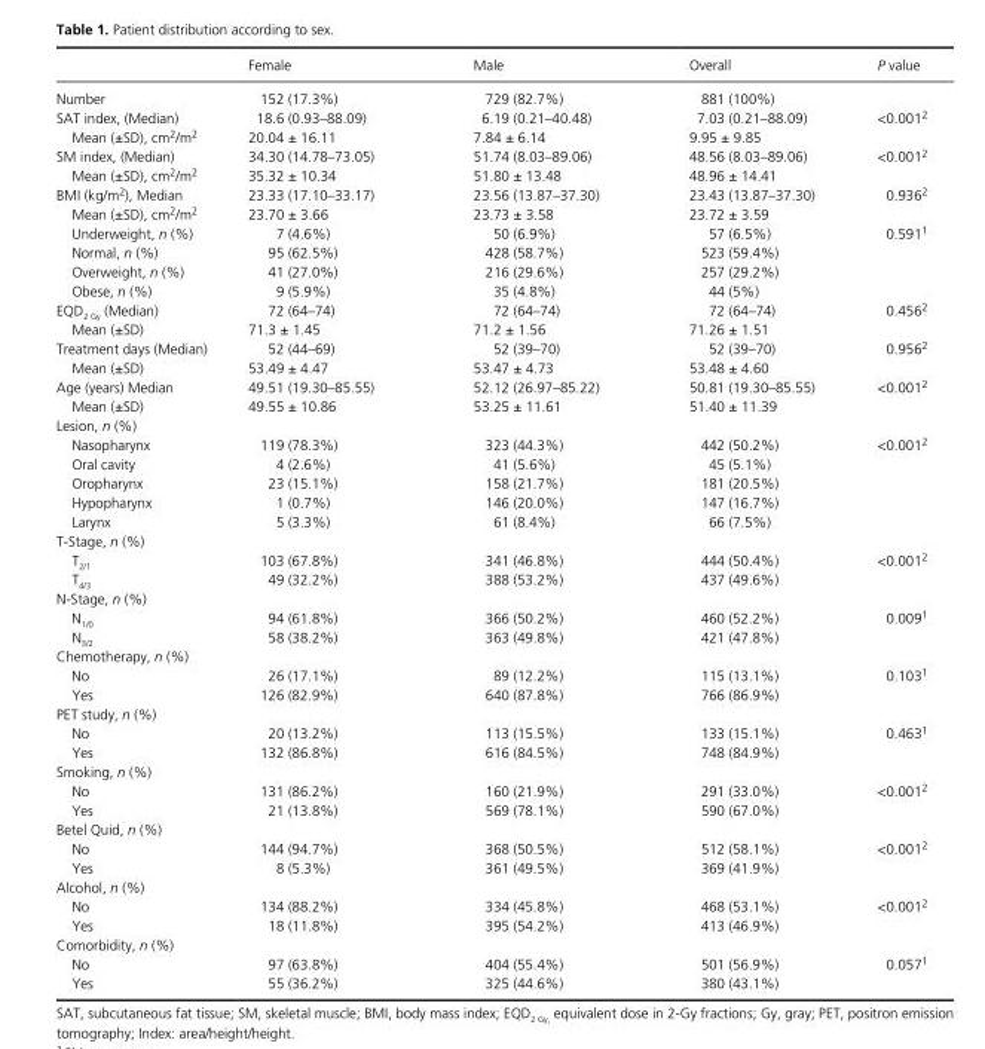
<table><thead><tr><td></td><td>Female</td><td>Male</td><td>Overall</td><td>P value</td></tr></thead><tbody><tr><td>Number</td><td>152 (17.3%)</td><td>729 (82.7%)</td><td>881 (100%)</td><td></td></tr><tr><td>SAT index, (Median)</td><td>18.6 (0.93–88.09)</td><td>6.19 (0.21–40.48)</td><td>7.03 (0.21–88.09)</td><td>&lt;0.0012</td></tr><tr><td>Mean (±SD), cm<sup>2</sup>/m<sup>2</sup></td><td>20.04 ± 16.11</td><td>7.84 ± 6.14</td><td>9.95 ± 9.85</td><td></td></tr><tr><td>SM index, (Median)</td><td>34.30 (14.78–73.05)</td><td>51.74 (8.03–89.06)</td><td>48.56 (8.03–89.06)</td><td>&lt;0.0012</td></tr><tr><td>Mean (±SD), cm<sup>2</sup>/m<sup>2</sup></td><td>35.32 ± 10.34</td><td>51.80 ± 13.48</td><td>48.96 ± 14.41</td><td></td></tr><tr><td>BMI (kg/m<sup>2</sup>), Median</td><td>23.33 (17.10–33.17)</td><td>23.56 (13.87–37.30)</td><td>23.43 (13.87–37.30)</td><td>0.9362</td></tr><tr><td>Mean (±SD), cm<sup>2</sup>/m<sup>2</sup></td><td>23.70 ± 3.66</td><td>23.73 ± 3.58</td><td>23.72 ± 3.59</td><td></td></tr><tr><td>Underweight, n (%)</td><td>7 (4.6%)</td><td>50 (6.9%)</td><td>57 (6.5%)</td><td>0.591<sup>1</sup></td></tr><tr><td>Normal, n (%)</td><td>95 (62.5%)</td><td>428 (58.7%)</td><td>523 (59.4%)</td><td></td></tr><tr><td>Overweight, n (%)</td><td>41 (27.0%)</td><td>216 (29.6%)</td><td>257 (29.2%)</td><td></td></tr><tr><td>Obese, n (%)</td><td>9 (5.9%)</td><td>35 (4.8%)</td><td>44 (5%)</td><td></td></tr><tr><td>EQD<sub>2 Gy</sub> (Median)</td><td>72 (64–74)</td><td>72 (64–74)</td><td>72 (64–74)</td><td>0.4562</td></tr><tr><td>Mean (±SD)</td><td>71.3 ± 1.45</td><td>71.2 ± 1.56</td><td>71.26 ± 1.51</td><td></td></tr><tr><td>Treatment days (Median)</td><td>52 (44–69)</td><td>52 (39–70)</td><td>52 (39–70)</td><td>0.9562</td></tr><tr><td>Mean (±SD)</td><td>53.49 ± 4.47</td><td>53.47 ± 4.73</td><td>53.48 ± 4.60</td><td></td></tr><tr><td>Age (years) Median</td><td>49.51 (19.30–85.55)</td><td>52.12 (26.97–85.22)</td><td>50.81 (19.30–85.55)</td><td>&lt;0.0012</td></tr><tr><td>Mean (±SD)</td><td>49.55 ± 10.86</td><td>53.25 ± 11.61</td><td>51.40 ± 11.39</td><td></td></tr><tr><td colspan="5">Lesion, n (%)</td></tr><tr><td>Nasopharynx</td><td>119 (78.3%)</td><td>323 (44.3%)</td><td>442 (50.2%)</td><td>&lt;0.0012</td></tr><tr><td>Oral cavity</td><td>4 (2.6%)</td><td>41 (5.6%)</td><td>45 (5.1%)</td><td></td></tr><tr><td>Oropharynx</td><td>23 (15.1%)</td><td>158 (21.7%)</td><td>181 (20.5%)</td><td></td></tr><tr><td>Hypopharynx</td><td>1 (0.7%)</td><td>146 (20.0%)</td><td>147 (16.7%)</td><td></td></tr><tr><td>Larynx</td><td>5 (3.3%)</td><td>61 (8.4%)</td><td>66 (7.5%)</td><td></td></tr><tr><td colspan="5">T- Stage, n (%)</td></tr><tr><td>T<sub>2/1</sub></td><td>103 (67.8%)</td><td>341 (46.8%)</td><td>444 (50.4%)</td><td>&lt;0.0012</td></tr><tr><td>T<sub>4/3</sub></td><td>49 (32.2%)</td><td>388 (53.2%)</td><td>437 (49.6%)</td><td></td></tr><tr><td colspan="5">N- Stage, n (%)</td></tr><tr><td>N<sub>1/0</sub></td><td>94 (61.8%)</td><td>366 (50.2%)</td><td>460 (52.2%)</td><td>0.0091</td></tr><tr><td>N<sub>3/2</sub></td><td>58 (38.2%)</td><td>363 (49.8%)</td><td>421 (47.8%)</td><td></td></tr><tr><td colspan="5">Chemotherapy, n (%)</td></tr><tr><td>No</td><td>26 (17.1%)</td><td>89 (12.2%)</td><td>115 (13.1%)</td><td>0.1031</td></tr><tr><td>Yes</td><td>126 (82.9%)</td><td>640 (87.8%)</td><td>766 (86.9%)</td><td></td></tr><tr><td colspan="5">PET study, n (%)</td></tr><tr><td>No</td><td>20 (13.2%)</td><td>113 (15.5%)</td><td>133 (15.1%)</td><td>0.4631</td></tr><tr><td>Yes</td><td>132 (86.8%)</td><td>616 (84.5%)</td><td>748 (84.9%)</td><td></td></tr><tr><td colspan="5">Smoking, n (%)</td></tr><tr><td>No</td><td>131 (86.2%)</td><td>160 (21.9%)</td><td>291 (33.0%)</td><td>&lt;0.0012</td></tr><tr><td>Yes</td><td>21 (13.8%)</td><td>569 (78.1%)</td><td>590 (67.0%)</td><td></td></tr><tr><td colspan="5">Betel Quid, n (%)</td></tr><tr><td>No</td><td>144 (94.7%)</td><td>368 (50.5%)</td><td>512 (58.1%)</td><td>&lt;0.0012</td></tr><tr><td>Yes</td><td>8 (5.3%)</td><td>361 (49.5%)</td><td>369 (41.9%)</td><td></td></tr><tr><td colspan="5">Alcohol, n (%)</td></tr><tr><td>No</td><td>134 (88.2%)</td><td>334 (45.8%)</td><td>468 (53.1%)</td><td>&lt;0.0012</td></tr><tr><td>Yes</td><td>18 (11.8%)</td><td>395 (54.2%)</td><td>413 (46.9%)</td><td></td></tr><tr><td colspan="5">Comorbidity, n (%)</td></tr><tr><td>No</td><td>97 (63.8%)</td><td>404 (55.4%)</td><td>501 (56.9%)</td><td>0.0571</td></tr><tr><td>Yes</td><td>55 (36.2%)</td><td>325 (44.6%)</td><td>380 (43.1%)</td><td></td></tr></tbody></table>